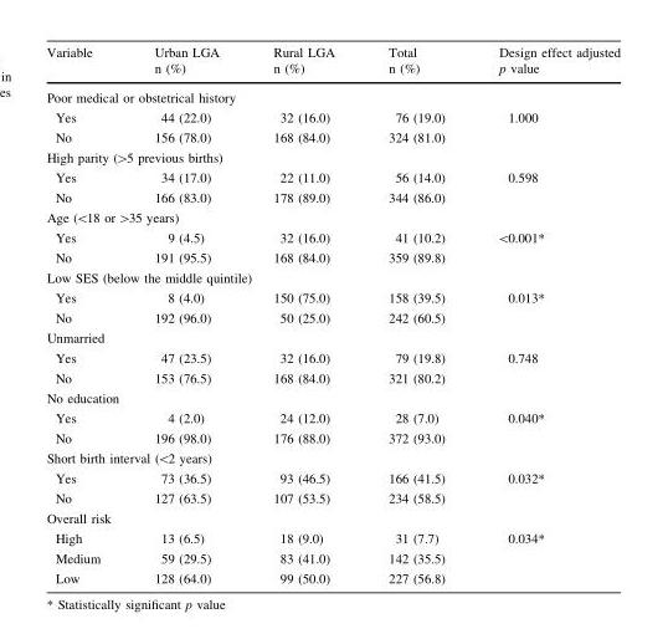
<table><thead><tr><td rowspan="2">Variable</td><td rowspan="2">Urban LGA n (%)</td><td rowspan="2">Rural LGA n (%)</td><td rowspan="2">Total n (%)</td><td rowspan="2">Design effect adjusted p value</td></tr><tr></tr></thead><tbody><tr><td colspan="5">Poor medical or obstetrical history</td></tr><tr><td>Yes</td><td>44 (22.0)</td><td>32 (16.0)</td><td>76 (19.0)</td><td rowspan="2">1.000</td></tr><tr><td>No</td><td>156 (78.0)</td><td>168 (84.0)</td><td>324 (81.0)</td></tr><tr><td colspan="5">High parity (&gt;5 previous births)</td></tr><tr><td>Yes</td><td>34 (17.0)</td><td>22 (11.0)</td><td>56 (14.0)</td><td rowspan="2">0.598</td></tr><tr><td>No</td><td>166 (83.0)</td><td>178 (89.0)</td><td>344 (86.0)</td></tr><tr><td colspan="5">Age (&lt;18 or &gt;35 years)</td></tr><tr><td>Yes</td><td>9 (4.5)</td><td>32 (16.0)</td><td>41 (10.2)</td><td rowspan="2">&lt;0.001*</td></tr><tr><td>No</td><td>191 (95.5)</td><td>168 (84.0)</td><td>359 (89.8)</td></tr><tr><td colspan="5">Low SES (below the middle quintile)</td></tr><tr><td>Yes</td><td>8 (4.0)</td><td>150 (75.0)</td><td>158 (39.5)</td><td rowspan="2">0.013*</td></tr><tr><td>No</td><td>192 (96.0)</td><td>50 (25.0)</td><td>242 (60.5)</td></tr><tr><td colspan="5">Unmarried</td></tr><tr><td>Yes</td><td>47 (23.5)</td><td>32 (16.0)</td><td>79 (19.8)</td><td rowspan="2">0.748</td></tr><tr><td>No</td><td>153 (76.5)</td><td>168 (84.0)</td><td>321 (80.2)</td></tr><tr><td colspan="5">No education</td></tr><tr><td>Yes</td><td>4 (2.0)</td><td>24 (12.0)</td><td>28 (7.0)</td><td rowspan="2">0.040*</td></tr><tr><td>No</td><td>196 (98.0)</td><td>176 (88.0)</td><td>372 (93.0)</td></tr><tr><td colspan="5">Short birth interval (&lt;2 years)</td></tr><tr><td>Yes</td><td>73 (36.5)</td><td>93 (46.5)</td><td>166 (41.5)</td><td rowspan="2">0.032*</td></tr><tr><td>No</td><td>127 (63.5)</td><td>107 (53.5)</td><td>234 (58.5)</td></tr><tr><td colspan="5">Overall risk</td></tr><tr><td>High</td><td>13 (6.5)</td><td>18 (9.0)</td><td>31 (7.7)</td><td rowspan="3">0.034*</td></tr><tr><td>Medium</td><td>59 (29.5)</td><td>83 (41.0)</td><td>142 (35.5)</td></tr><tr><td>Low</td><td>128 (64.0)</td><td>99 (50.0)</td><td>227 (56.8)</td></tr></tbody></table>